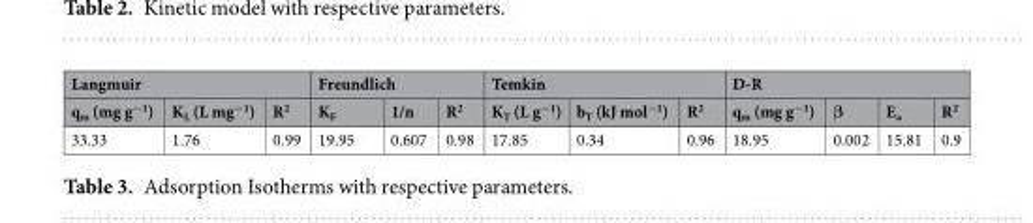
<table><thead><tr><td colspan="3">Langmuir</td><td colspan="3">Freundlich</td><td colspan="3">Temkin</td><td colspan="4">D-R</td></tr><tr><td>q<sub>m</sub> (mg g<sup>−1</sup>)</td><td>K<sub>L</sub> (L mg<sup>−1</sup>)</td><td>R<sup>2</sup></td><td>K<sub>F</sub></td><td>1/n</td><td>R<sup>2</sup></td><td>K<sub>T</sub> (L g<sup>−1</sup>)</td><td>b<sub>T</sub> (kJ mol<sup>−1</sup>)</td><td>R<sup>2</sup></td><td>q<sub>m</sub> (mg g<sup>−1</sup>)</td><td>β</td><td>E<sub>a</sub></td><td>R<sup>2</sup></td></tr></thead><tbody><tr><td>33.33</td><td>1.76</td><td>0.99</td><td>19.95</td><td>0.607</td><td>0.98</td><td>17.85</td><td>0.34</td><td>0.96</td><td>18.95</td><td>0.002</td><td>15.81</td><td>0.9</td></tr></tbody></table>